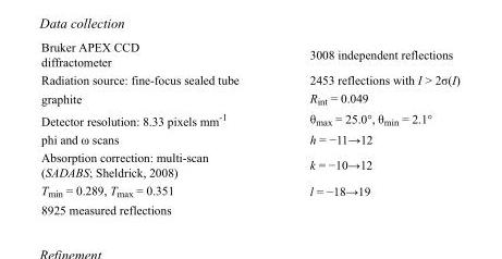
<table><tbody><tr><td>Bruker APEX CCD diffractometer</td><td>3008 independent reflections</td></tr><tr><td>Radiation source: fine-focus sealed tube</td><td>2453 reflections with I &gt; 2σ(I)</td></tr><tr><td>graphite</td><td>R<sub>int</sub> = 0.049</td></tr><tr><td>Detector resolution: 8.33 pixels mm<sup>-1</sup></td><td>θ<sub>max</sub> = 25.0°, θ<sub>min</sub> = 2.1°</td></tr><tr><td>phi and ω scans</td><td>h = −11→12</td></tr><tr><td>Absorption correction: multi-scan (SADABS; Sheldrick, 2008)</td><td>k = −10→12</td></tr><tr><td>T<sub>min</sub> = 0.289, T<sub>max</sub> = 0.351</td><td>l = −18→19</td></tr><tr><td>8925 measured reflections</td><td></td></tr></tbody></table>